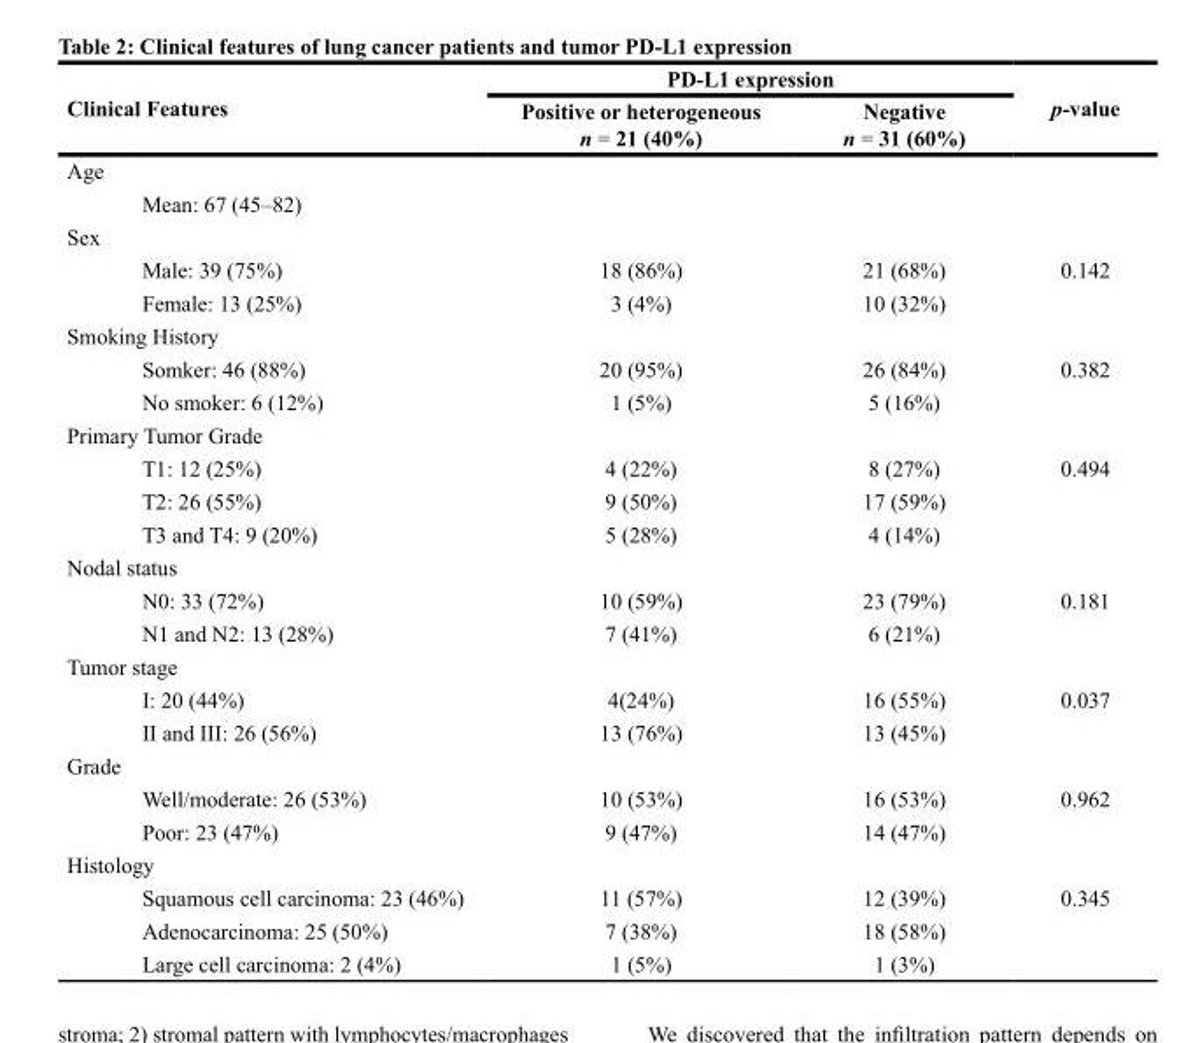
<table><thead><tr><td rowspan="2">Clinical Features</td><td colspan="2">PD-L1 expression</td><td rowspan="2">p-value</td></tr><tr><td>Positive or heterogeneous n = 21 (40%)</td><td>Negative n = 31 (60%)</td></tr></thead><tbody><tr><td colspan="4">Age</td></tr><tr><td colspan="4">Mean: 67 (45–82)</td></tr><tr><td colspan="4">Sex</td></tr><tr><td>Male: 39 (75%)</td><td>18 (86%)</td><td>21 (68%)</td><td>0.142</td></tr><tr><td>Female: 13 (25%)</td><td>3 (4%)</td><td>10 (32%)</td><td></td></tr><tr><td colspan="4">Smoking History</td></tr><tr><td>Somker: 46 (88%)</td><td>20 (95%)</td><td>26 (84%)</td><td>0.382</td></tr><tr><td>No smoker: 6 (12%)</td><td>1 (5%)</td><td>5 (16%)</td><td></td></tr><tr><td colspan="4">Primary Tumor Grade</td></tr><tr><td>T1: 12 (25%)</td><td>4 (22%)</td><td>8 (27%)</td><td>0.494</td></tr><tr><td>T2: 26 (55%)</td><td>9 (50%)</td><td>17 (59%)</td><td></td></tr><tr><td>T3 and T4: 9 (20%)</td><td>5 (28%)</td><td>4 (14%)</td><td></td></tr><tr><td colspan="4">Nodal status</td></tr><tr><td>N0: 33 (72%)</td><td>10 (59%)</td><td>23 (79%)</td><td>0.181</td></tr><tr><td>N1 and N2: 13 (28%)</td><td>7 (41%)</td><td>6 (21%)</td><td></td></tr><tr><td colspan="4">Tumor stage</td></tr><tr><td>I: 20 (44%)</td><td>4(24%)</td><td>16 (55%)</td><td>0.037</td></tr><tr><td>II and III: 26 (56%)</td><td>13 (76%)</td><td>13 (45%)</td><td></td></tr><tr><td colspan="4">Grade</td></tr><tr><td>Well/moderate: 26 (53%)</td><td>10 (53%)</td><td>16 (53%)</td><td>0.962</td></tr><tr><td>Poor: 23 (47%)</td><td>9 (47%)</td><td>14 (47%)</td><td></td></tr><tr><td colspan="4">Histology</td></tr><tr><td>Squamous cell carcinoma: 23 (46%)</td><td>11 (57%)</td><td>12 (39%)</td><td>0.345</td></tr><tr><td>Adenocarcinoma: 25 (50%)</td><td>7 (38%)</td><td>18 (58%)</td><td></td></tr><tr><td>Large cell carcinoma: 2 (4%)</td><td>1 (5%)</td><td>1 (3%)</td><td></td></tr></tbody></table>